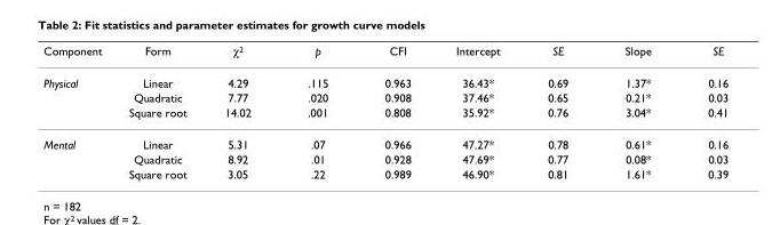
<table><thead><tr><td>Component</td><td>Form</td><td>χ<sup>2</sup></td><td>p</td><td>CFI</td><td>Intercept</td><td>SE</td><td>Slope</td><td>SE</td></tr></thead><tbody><tr><td rowspan="3">Physical</td><td>Linear</td><td>4.29</td><td>.115</td><td>0.963</td><td>36.43*</td><td>0.69</td><td>1.37*</td><td>0.16</td></tr><tr><td>Quadratic</td><td>7.77</td><td>.020</td><td>0.908</td><td>37.46*</td><td>0.65</td><td>0.21*</td><td>0.03</td></tr><tr><td>Square root</td><td>14.02</td><td>.001</td><td>0.808</td><td>35.92*</td><td>0.76</td><td>3.04*</td><td>0.41</td></tr><tr><td rowspan="3">Mental</td><td>Linear</td><td>5.31</td><td>.07</td><td>0.966</td><td>47.27*</td><td>0.78</td><td>0.61*</td><td>0.16</td></tr><tr><td>Quadratic</td><td>8.92</td><td>.01</td><td>0.928</td><td>47.69*</td><td>0.77</td><td>0.08*</td><td>0.03</td></tr><tr><td>Square root</td><td>3.05</td><td>.22</td><td>0.989</td><td>46.90*</td><td>0.81</td><td>1.61*</td><td>0.39</td></tr></tbody></table>